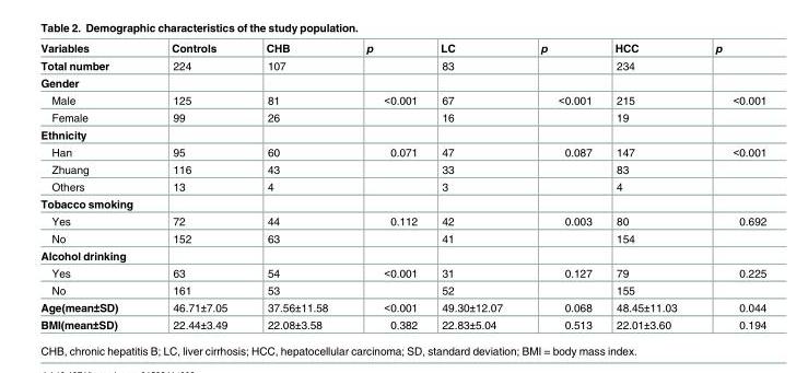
<table><thead><tr><td>Variables</td><td>Controls</td><td>CHB</td><td>p</td><td>LC</td><td>p</td><td>HCC</td><td>p</td></tr></thead><tbody><tr><td>Total number</td><td>224</td><td>107</td><td></td><td>83</td><td></td><td>234</td><td></td></tr><tr><td colspan="8">Gender</td></tr><tr><td>Male</td><td>125</td><td>81</td><td>&lt;0.001</td><td>67</td><td>&lt;0.001</td><td>215</td><td>&lt;0.001</td></tr><tr><td>Female</td><td>99</td><td>26</td><td></td><td>16</td><td></td><td>19</td><td></td></tr><tr><td colspan="8">Ethnicity</td></tr><tr><td>Han</td><td>95</td><td>60</td><td>0.071</td><td>47</td><td>0.087</td><td>147</td><td>&lt;0.001</td></tr><tr><td>Zhuang</td><td>116</td><td>43</td><td></td><td>33</td><td></td><td>83</td><td></td></tr><tr><td>Others</td><td>13</td><td>4</td><td></td><td>3</td><td></td><td>4</td><td></td></tr><tr><td colspan="8">Tobacco smoking</td></tr><tr><td>Yes</td><td>72</td><td>44</td><td>0.112</td><td>42</td><td>0.003</td><td>80</td><td>0.692</td></tr><tr><td>No</td><td>152</td><td>63</td><td></td><td>41</td><td></td><td>154</td><td></td></tr><tr><td colspan="8">Alcohol drinking</td></tr><tr><td>Yes</td><td>63</td><td>54</td><td>&lt;0.001</td><td>31</td><td>0.127</td><td>79</td><td>0.225</td></tr><tr><td>No</td><td>161</td><td>53</td><td></td><td>52</td><td></td><td>155</td><td></td></tr><tr><td>Age(mean±SD)</td><td>46.71±7.05</td><td>37.56±11.58</td><td>&lt;0.001</td><td>49.30±12.07</td><td>0.068</td><td>48.45±11.03</td><td>0.044</td></tr><tr><td>BMI(mean±SD)</td><td>22.44±3.49</td><td>22.08±3.58</td><td>0.382</td><td>22.83±5.04</td><td>0.513</td><td>22.01±3.60</td><td>0.194</td></tr></tbody></table>